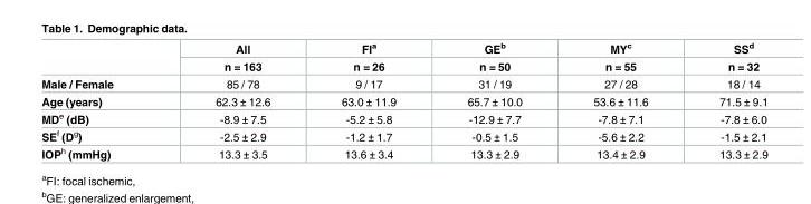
<table><thead><tr><td rowspan="2"></td><td rowspan="2">All n = 163</td><td rowspan="2">FI<sup>a</sup> n = 26</td><td rowspan="2">GE<sup>b</sup> n = 50</td><td rowspan="2">MY<sup>c</sup> n = 55</td><td rowspan="2">SS<sup>d</sup> n = 32</td></tr><tr></tr></thead><tbody><tr><td>Male / Female</td><td>85 / 78</td><td>9 / 17</td><td>31 / 19</td><td>27 / 28</td><td>18 / 14</td></tr><tr><td>Age (years)</td><td>62.3 ± 12.6</td><td>63.0 ± 11.9</td><td>65.7 ± 10.0</td><td>53.6 ± 11.6</td><td>71.5 ± 9.1</td></tr><tr><td>MD<sup>e</sup> (dB)</td><td>-8.9 ± 7.5</td><td>-5.2 ± 5.8</td><td>-12.9 ± 7.7</td><td>-7.8 ± 7.1</td><td>-7.8 ± 6.0</td></tr><tr><td>SE<sup>f</sup> (D<sup>g</sup>)</td><td>-2.5 ± 2.9</td><td>-1.2 ± 1.7</td><td>-0.5 ± 1.5</td><td>-5.6 ± 2.2</td><td>-1.5 ± 2.1</td></tr><tr><td>IOP<sup>h</sup> (mmHg)</td><td>13.3 ± 3.5</td><td>13.6 ± 3.4</td><td>13.3 ± 2.9</td><td>13.4 ± 2.9</td><td>13.3 ± 2.9</td></tr></tbody></table>